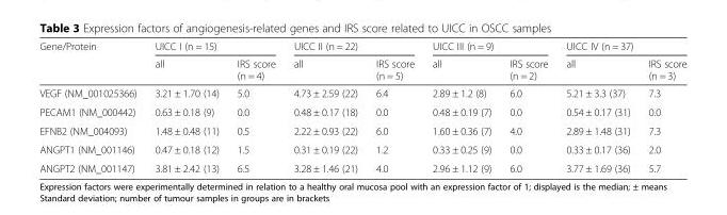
<table><thead><tr><td rowspan="2">Gene/Protein</td><td colspan="2">UICC I (n = 15)</td><td colspan="2">UICC II (n = 22)</td><td colspan="2">UICC III (n = 9)</td><td colspan="2">UICC IV (n = 37)</td></tr><tr><td>all</td><td>IRS score (n = 4)</td><td>all</td><td>IRS score (n = 5)</td><td>all</td><td>IRS score (n = 2)</td><td>all</td><td>IRS score (n = 3)</td></tr></thead><tbody><tr><td>VEGF (NM_001025366)</td><td>3.21 ± 1.70 (14)</td><td>5.0</td><td>4.73 ± 2.59 (22)</td><td>6.4</td><td>2.89 ± 1.2 (8)</td><td>6.0</td><td>5.21 ± 3.3 (37)</td><td>7.3</td></tr><tr><td>PECAM1 (NM_000442)</td><td>0.63 ± 0.18 (9)</td><td>0.0</td><td>0.48 ± 0.17 (18)</td><td>0.0</td><td>0.48 ± 0.19 (7)</td><td>0.0</td><td>0.54 ± 0.17 (31)</td><td>0.0</td></tr><tr><td>EFNB2 (NM_004093)</td><td>1.48 ± 0.48 (11)</td><td>0.5</td><td>2.22 ± 0.93 (22)</td><td>6.0</td><td>1.60 ± 0.36 (7)</td><td>4.0</td><td>2.89 ± 1.48 (31)</td><td>7.3</td></tr><tr><td>ANGPT1 (NM_001146)</td><td>0.47 ± 0.18 (12)</td><td>1.5</td><td>0.31 ± 0.19 (22)</td><td>1.2</td><td>0.33 ± 0.25 (9)</td><td>0.0</td><td>0.33 ± 0.17 (36)</td><td>2.0</td></tr><tr><td>ANGPT2 (NM_001147)</td><td>3.81 ± 2.42 (13)</td><td>6.5</td><td>3.28 ± 1.46 (21)</td><td>4.0</td><td>2.96 ± 1.12 (9)</td><td>6.0</td><td>3.77 ± 1.69 (36)</td><td>5.7</td></tr></tbody></table>